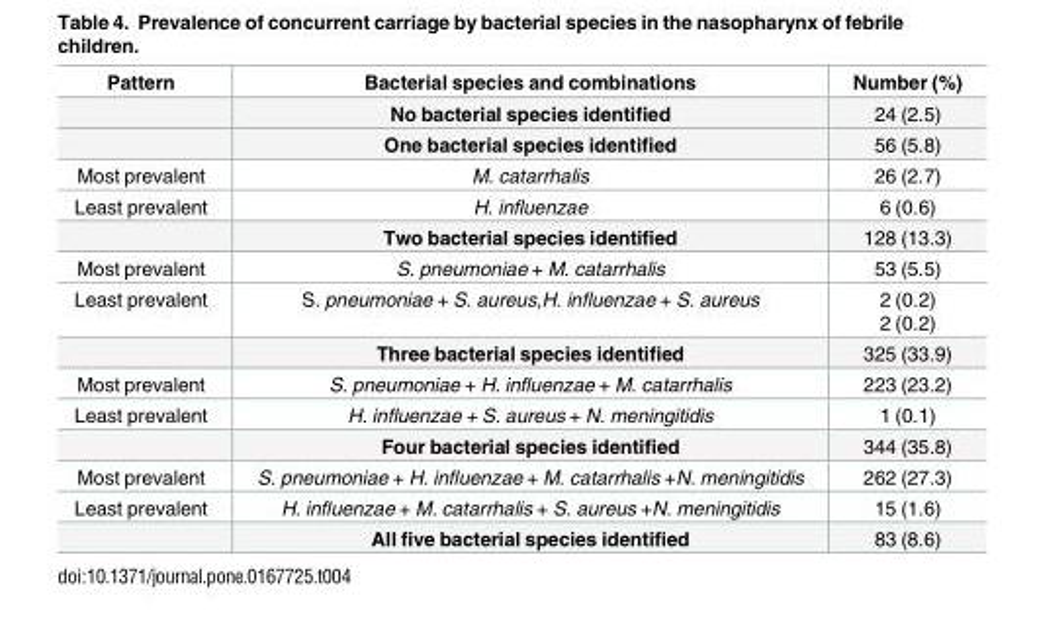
<table><thead><tr><td>Pattern</td><td>Bacterial species and combinations</td><td>Number (%)</td></tr></thead><tbody><tr><td></td><td>No bacterial species identified</td><td>24 (2.5)</td></tr><tr><td></td><td>One bacterial species identified</td><td>56 (5.8)</td></tr><tr><td>Most prevalent</td><td>M. catarrhalis</td><td>26 (2.7)</td></tr><tr><td rowspan="2">Least prevalent</td><td>H. influenzae</td><td>6 (0.6)</td></tr><tr><td>Two bacterial species identified</td><td>128 (13.3)</td></tr><tr><td>Most prevalent</td><td>S. pneumoniae + M. catarrhalis</td><td>53 (5.5)</td></tr><tr><td rowspan="2">Least prevalent</td><td>S. pneumoniae + S. aureus,H. influenzae + S. aureus</td><td>2 (0.2) 2 (0.2)</td></tr><tr><td>Three bacterial species identified</td><td>325 (33.9)</td></tr><tr><td>Most prevalent</td><td>S. pneumoniae + H. influenzae + M. catarrhalis</td><td>223 (23.2)</td></tr><tr><td rowspan="2">Least prevalent</td><td>H. influenzae + S. aureus + N. meningitidis</td><td>1 (0.1)</td></tr><tr><td>Four bacterial species identified</td><td>344 (35.8)</td></tr><tr><td>Most prevalent</td><td>S. pneumoniae + H. influenzae + M. catarrhalis +N. meningitidis</td><td>262 (27.3)</td></tr><tr><td rowspan="2">Least prevalent</td><td>H. influenzae + M. catarrhalis + S. aureus +N. meningitidis</td><td>15 (1.6)</td></tr><tr><td>All five bacterial species identified</td><td>83 (8.6)</td></tr></tbody></table>